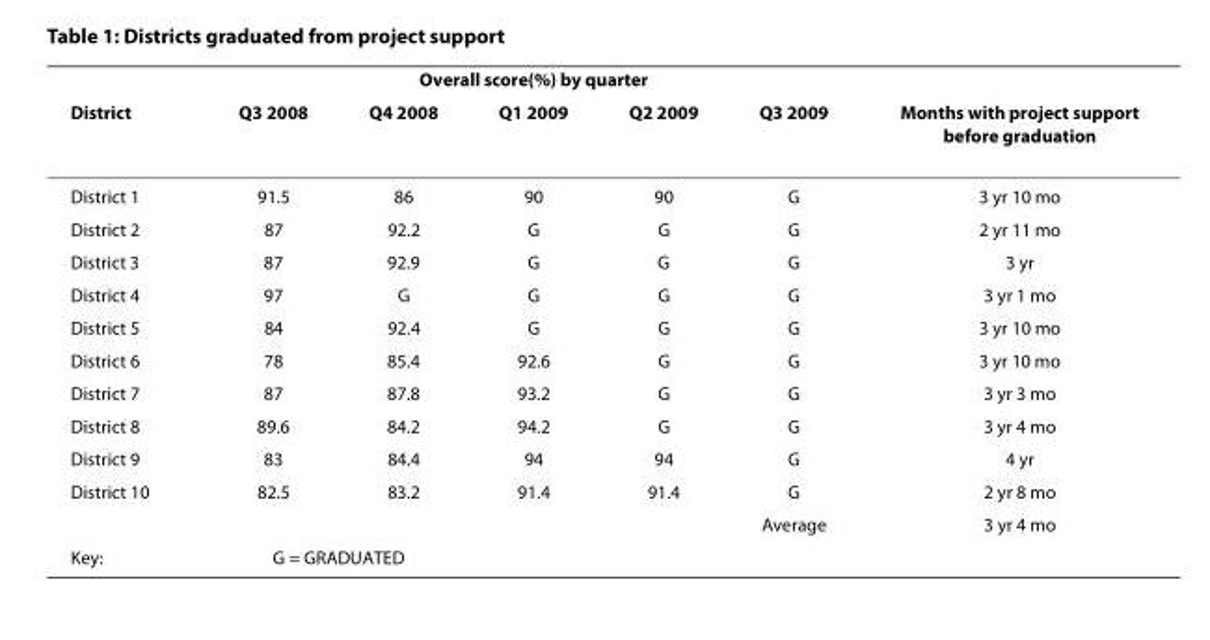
<table><thead><tr><td rowspan="2">District</td><td colspan="5">Overall score(%) by quarter</td><td rowspan="2">Months with project support before graduation</td></tr><tr><td>Q3 2008</td><td>Q4 2008</td><td>Q1 2009</td><td>Q2 2009</td><td>Q3 2009</td></tr></thead><tbody><tr><td>District 1</td><td>91.5</td><td>86</td><td>90</td><td>90</td><td>G</td><td>3 yr 10 mo</td></tr><tr><td>District 2</td><td>87</td><td>92.2</td><td>G</td><td>G</td><td>G</td><td>2 yr 11 mo</td></tr><tr><td>District 3</td><td>87</td><td>92.9</td><td>G</td><td>G</td><td>G</td><td>3 yr</td></tr><tr><td>District 4</td><td>97</td><td>G</td><td>G</td><td>G</td><td>G</td><td>3 yr 1 mo</td></tr><tr><td>District 5</td><td>84</td><td>92.4</td><td>G</td><td>G</td><td>G</td><td>3 yr 10 mo</td></tr><tr><td>District 6</td><td>78</td><td>85.4</td><td>92.6</td><td>G</td><td>G</td><td>3 yr 10 mo</td></tr><tr><td>District 7</td><td>87</td><td>87.8</td><td>93.2</td><td>G</td><td>G</td><td>3 yr 3 mo</td></tr><tr><td>District 8</td><td>89.6</td><td>84.2</td><td>94.2</td><td>G</td><td>G</td><td>3 yr 4 mo</td></tr><tr><td>District 9</td><td>83</td><td>84.4</td><td>94</td><td>94</td><td>G</td><td>4 yr</td></tr><tr><td rowspan="2">District 10</td><td>82.5</td><td>83.2</td><td>91.4</td><td>91.4</td><td>G</td><td>2 yr 8 mo</td></tr><tr><td></td><td></td><td></td><td></td><td>Average</td><td>3 yr 4 mo</td></tr><tr><td>Key:</td><td colspan="2">G = GRADUATED</td><td></td><td></td><td></td><td></td></tr></tbody></table>